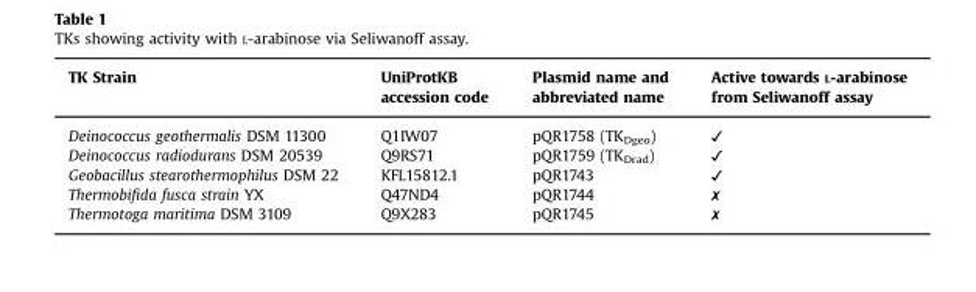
<table><thead><tr><td>TK Strain</td><td>UniProtKB accession code</td><td>Plasmid name and abbreviated name</td><td>Active towards L-arabinose from Seliwanoff assay</td></tr></thead><tbody><tr><td>Deinococcus geothermalis DSM 11300</td><td>Q1IW07</td><td>pQR1758 (TK<sub>Dgeo</sub>)</td><td>✓</td></tr><tr><td>Deinococcus radiodurans DSM 20539</td><td>Q9RS71</td><td>pQR1759 (TK<sub>Drad</sub>)</td><td>✓</td></tr><tr><td>Geobacillus stearothermophilus DSM 22</td><td>KFL15812.1</td><td>pQR1743</td><td>✓</td></tr><tr><td>Thermobifida fusca strain YX</td><td>Q47ND4</td><td>pQR1744</td><td>✗</td></tr><tr><td>Thermotoga maritima DSM 3109</td><td>Q9X283</td><td>pQR1745</td><td>✗</td></tr></tbody></table>